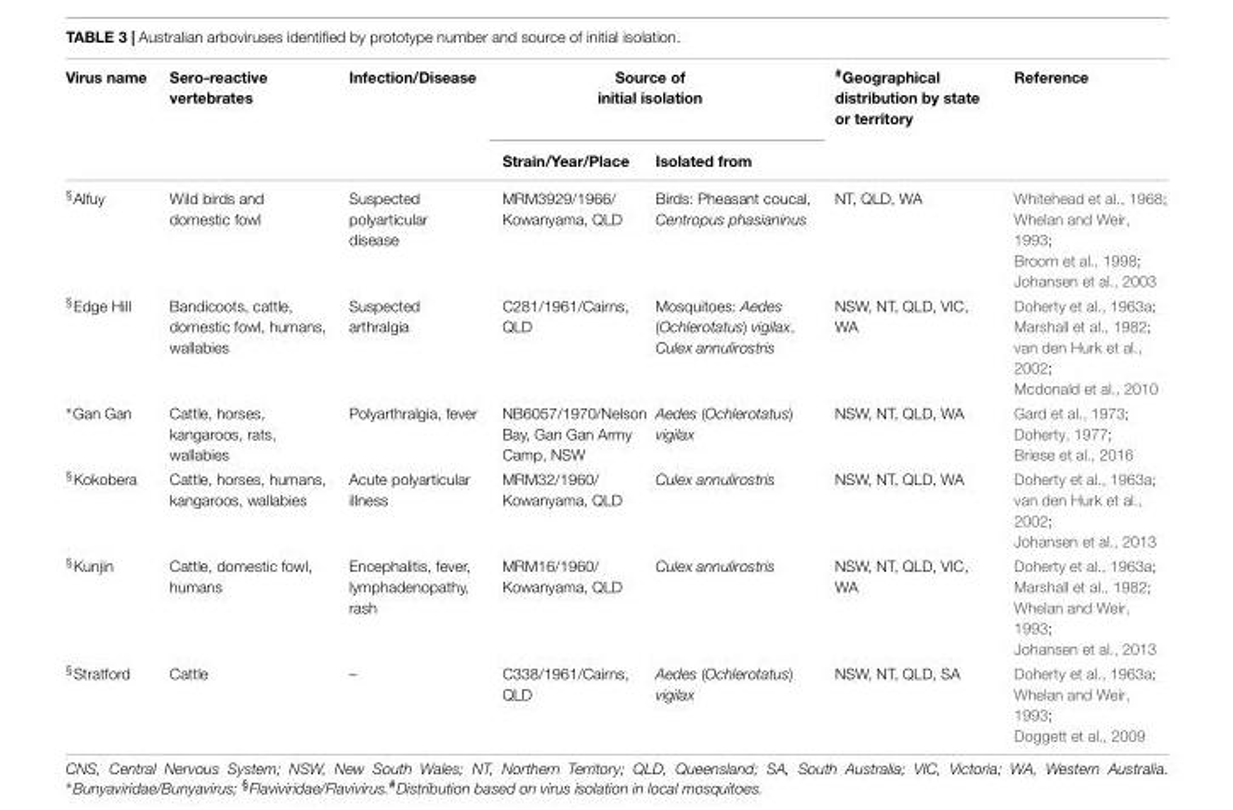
<table><thead><tr><td rowspan="2">Virus name</td><td rowspan="2">Sero-reactive vertebrates</td><td rowspan="2">Infection/Disease</td><td colspan="2">Source of initial isolation</td><td rowspan="2"><sup>#</sup>Geographical distribution by state or territory</td><td rowspan="2">Reference</td></tr><tr><td>Strain/Year/Place</td><td>Isolated from</td></tr></thead><tbody><tr><td>§Alfuy</td><td>Wild birds and domestic fowl</td><td>Suspected polyarticular disease</td><td>MRM3929/1966/ Kowanyama, QLD</td><td>Birds: Pheasant coucal, Centropus phasianinus</td><td>NT, QLD, WA</td><td>Whitehead et al., 1968; Whelan and Weir, 1993; Broom et al., 1998; Johansen et al., 2003</td></tr><tr><td>§Edge Hill</td><td>Bandicoots, cattle, domestic fowl, humans, wallabies</td><td>Suspected arthralgia</td><td>C281/1961/Cairns, QLD</td><td>Mosquitoes: Aedes (Ochlerotatus) vigilax, Culex annulirostris</td><td>NSW, NT, QLD, VIC, WA</td><td>Doherty et al., 1963a; Marshall et al., 1982; van den Hurk et al., 2002; Mcdonald et al., 2010</td></tr><tr><td>∗Gan Gan</td><td>Cattle, horses, kangaroos, rats, wallabies</td><td>Polyarthralgia, fever</td><td>NB6057/1970/Nelson Bay, Gan Gan Army Camp, NSW</td><td>Aedes (Ochlerotatus) vigilax</td><td>NSW, NT, QLD, WA</td><td>Gard et al., 1973; Doherty, 1977; Briese et al., 2016</td></tr><tr><td>§Kokobera</td><td>Cattle, horses, humans, kangaroos, wallabies</td><td>Acute polyarticular illness</td><td>MRM32/1960/ Kowanyama, QLD</td><td>Culex annulirostris</td><td>NSW, NT, QLD, WA</td><td>Doherty et al., 1963a; van den Hurk et al., 2002; Johansen et al., 2013</td></tr><tr><td>§Kunjin</td><td>Cattle, domestic fowl, humans</td><td>Encephalitis, fever, lymphadenopathy, rash</td><td>MRM16/1960/ Kowanyama, QLD</td><td>Culex annulirostris</td><td>NSW, NT, QLD, VIC, WA</td><td>Doherty et al., 1963a; Marshall et al., 1982; Whelan and Weir, 1993; Johansen et al., 2013</td></tr><tr><td>§Stratford</td><td>Cattle</td><td>–</td><td>C338/1961/Cairns, QLD</td><td>Aedes (Ochlerotatus) vigilax</td><td>NSW, NT, QLD, SA</td><td>Doherty et al., 1963a; Whelan and Weir, 1993; Doggett et al., 2009</td></tr></tbody></table>